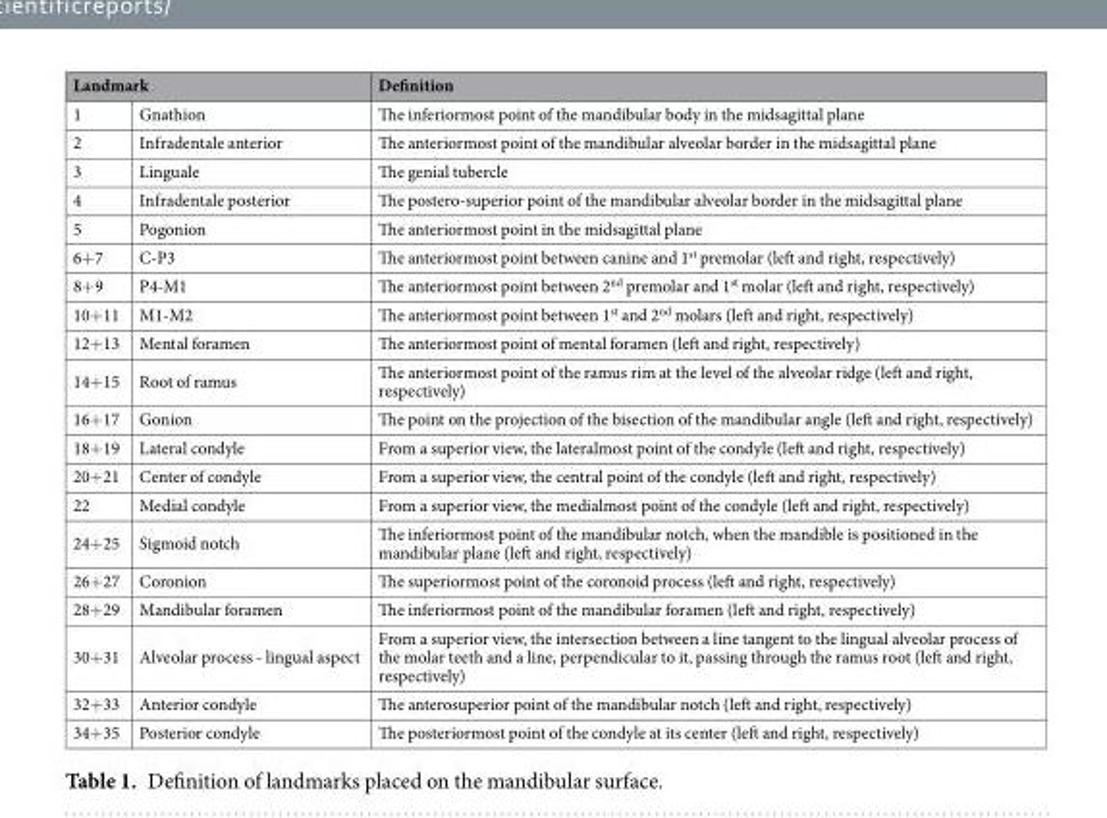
<table><thead><tr><td colspan="2">Landmark</td><td rowspan="2">Definition The inferiormost point of the mandibular body in the midsagittal plane</td></tr><tr><td>1</td><td>Gnathion</td></tr></thead><tbody><tr><td>2</td><td>Infradentale anterior</td><td>The anteriormost point of the mandibular alveolar border in the midsagittal plane</td></tr><tr><td>3</td><td>Linguale</td><td>The genial tubercle</td></tr><tr><td>4</td><td>Infradentale posterior</td><td>The postero-superior point of the mandibular alveolar border in the midsagittal plane</td></tr><tr><td>5</td><td>Pogonion</td><td>The anteriormost point in the midsagittal plane</td></tr><tr><td>6+7</td><td>C-P3</td><td>The anteriormost point between canine and 1<sup>st</sup> premolar (left and right, respectively)</td></tr><tr><td>8+9</td><td>P4-M1</td><td>The anteriormost point between 2<sup>nd</sup> premolar and 1<sup>st</sup> molar (left and right, respectively)</td></tr><tr><td>10+11</td><td>M1-M2</td><td>The anteriormost point between 1<sup>st</sup> and 2<sup>nd</sup> molars (left and right, respectively)</td></tr><tr><td>12+13</td><td>Mental foramen</td><td>The anteriormost point of mental foramen (left and right, respectively)</td></tr><tr><td>14+15</td><td>Root of ramus</td><td>The anteriormost point of the ramus rim at the level of the alveolar ridge (left and right, respectively)</td></tr><tr><td>16+17</td><td>Gonion</td><td>The point on the projection of the bisection of the mandibular angle (left and right, respectively)</td></tr><tr><td>18+19</td><td>Lateral condyle</td><td>From a superior view, the lateralmost point of the condyle (left and right, respectively)</td></tr><tr><td>20+21</td><td>Center of condyle</td><td>From a superior view, the central point of the condyle (left and right, respectively)</td></tr><tr><td>22</td><td>Medial condyle</td><td>From a superior view, the medialmost point of the condyle (left and right, respectively)</td></tr><tr><td>24+25</td><td>Sigmoid notch</td><td>The inferiormost point of the mandibular notch, when the mandible is positioned in the mandibular plane (left and right, respectively)</td></tr><tr><td>26+27</td><td>Coronion</td><td>The superiormost point of the coronoid process (left and right, respectively)</td></tr><tr><td>28+29</td><td>Mandibular foramen</td><td>The inferiormost point of the mandibular foramen (left and right, respectively)</td></tr><tr><td>30+31</td><td>Alveolar process - lingual aspect</td><td>From a superior view, the intersection between a line tangent to the lingual alveolar process of the molar teeth and a line, perpendicular to it, passing through the ramus root (left and right, respectively)</td></tr><tr><td>32+33</td><td>Anterior condyle</td><td>The anterosuperior point of the mandibular notch (left and right, respectively)</td></tr><tr><td>34+35</td><td>Posterior condyle</td><td>The posteriormost point of the condyle at its center (left and right, respectively)</td></tr></tbody></table>